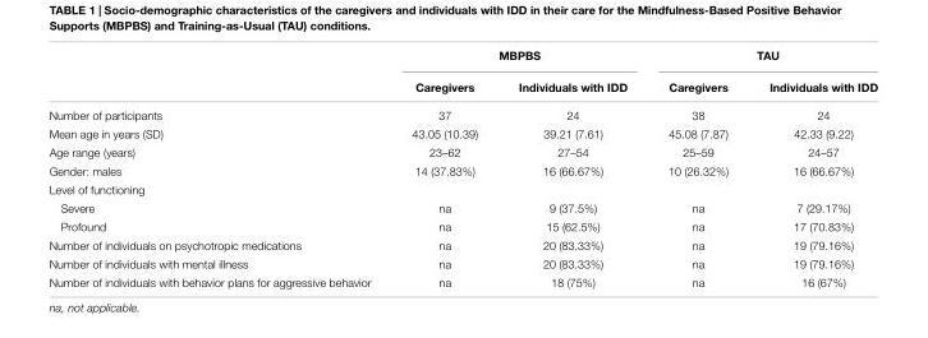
<table><thead><tr><td rowspan="2"></td><td colspan="2">MBPBS</td><td colspan="2">TAU</td></tr><tr><td>Caregivers</td><td>Individuals with IDD</td><td>Caregivers</td><td>Individuals with IDD</td></tr></thead><tbody><tr><td>Number of participants</td><td>37</td><td>24</td><td>38</td><td>24</td></tr><tr><td>Mean age in years (SD)</td><td>43.05 (10.39)</td><td>39.21 (7.61)</td><td>45.08 (7.87)</td><td>42.33 (9.22)</td></tr><tr><td>Age range (years)</td><td>23–62</td><td>27–54</td><td>25–59</td><td>24–57</td></tr><tr><td>Gender: males</td><td>14 (37.83%)</td><td>16 (66.67%)</td><td>10 (26.32%)</td><td>16 (66.67%)</td></tr><tr><td colspan="5">Level of functioning</td></tr><tr><td>Severe</td><td>na</td><td>9 (37.5%)</td><td>na</td><td>7 (29.17%)</td></tr><tr><td>Profound</td><td>na</td><td>15 (62.5%)</td><td>na</td><td>17 (70.83%)</td></tr><tr><td>Number of individuals on psychotropic medications</td><td>na</td><td>20 (83.33%)</td><td>na</td><td>19 (79.16%)</td></tr><tr><td>Number of individuals with mental illness</td><td>na</td><td>20 (83.33%)</td><td>na</td><td>19 (79.16%)</td></tr><tr><td>Number of individuals with behavior plans for aggressive behavior</td><td>na</td><td>18 (75%)</td><td>na</td><td>16 (67%)</td></tr></tbody></table>